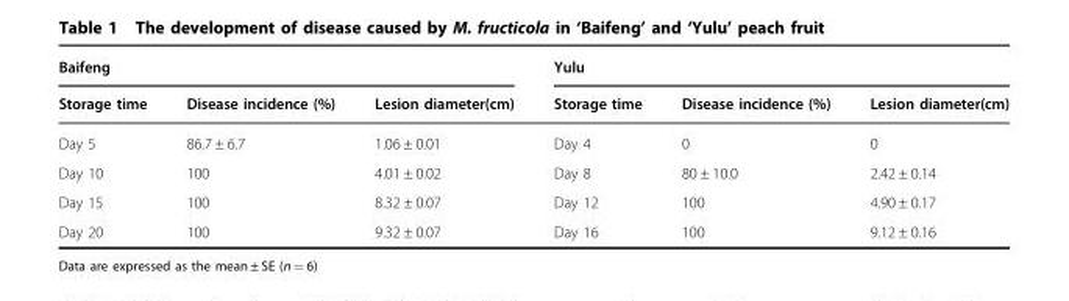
<table><thead><tr><td colspan="3">Baifeng</td><td colspan="3">Yulu</td></tr><tr><td>Storage time</td><td>Disease incidence (%)</td><td>Lesion diameter(cm)</td><td>Storage time</td><td>Disease incidence (%)</td><td>Lesion diameter(cm)</td></tr></thead><tbody><tr><td>Day 5</td><td>86.7 ± 6.7</td><td>1.06 ± 0.01</td><td>Day 4</td><td>0</td><td>0</td></tr><tr><td>Day 10</td><td>100</td><td>4.01 ± 0.02</td><td>Day 8</td><td>80 ± 10.0</td><td>2.42 ± 0.14</td></tr><tr><td>Day 15</td><td>100</td><td>8.32 ± 0.07</td><td>Day 12</td><td>100</td><td>4.90 ± 0.17</td></tr><tr><td>Day 20</td><td>100</td><td>9.32 ± 0.07</td><td>Day 16</td><td>100</td><td>9.12 ± 0.16</td></tr></tbody></table>